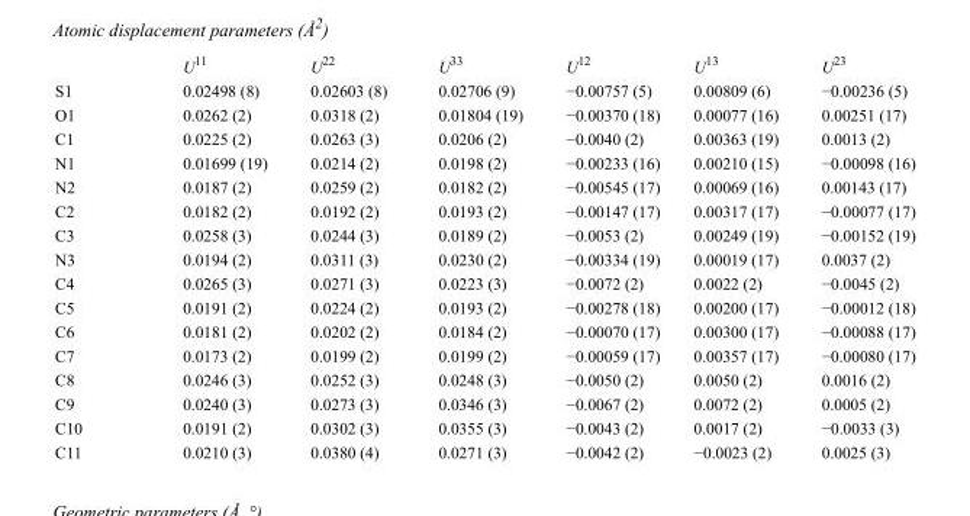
<table><thead><tr><td></td><td>U<sup>11</sup></td><td>U<sup>22</sup></td><td>U<sup>33</sup></td><td>U<sup>12</sup></td><td>U<sup>13</sup></td><td>U<sup>23</sup></td></tr></thead><tbody><tr><td>S1</td><td>0.02498 (8)</td><td>0.02603 (8)</td><td>0.02706 (9)</td><td>−0.00757 (5)</td><td>0.00809 (6)</td><td>−0.00236 (5)</td></tr><tr><td>O1</td><td>0.0262 (2)</td><td>0.0318 (2)</td><td>0.01804 (19)</td><td>−0.00370 (18)</td><td>0.00077 (16)</td><td>0.00251 (17)</td></tr><tr><td>C1</td><td>0.0225 (2)</td><td>0.0263 (3)</td><td>0.0206 (2)</td><td>−0.0040 (2)</td><td>0.00363 (19)</td><td>0.0013 (2)</td></tr><tr><td>N1</td><td>0.01699 (19)</td><td>0.0214 (2)</td><td>0.0198 (2)</td><td>−0.00233 (16)</td><td>0.00210 (15)</td><td>−0.00098 (16)</td></tr><tr><td>N2</td><td>0.0187 (2)</td><td>0.0259 (2)</td><td>0.0182 (2)</td><td>−0.00545 (17)</td><td>0.00069 (16)</td><td>0.00143 (17)</td></tr><tr><td>C2</td><td>0.0182 (2)</td><td>0.0192 (2)</td><td>0.0193 (2)</td><td>−0.00147 (17)</td><td>0.00317 (17)</td><td>−0.00077 (17)</td></tr><tr><td>C3</td><td>0.0258 (3)</td><td>0.0244 (3)</td><td>0.0189 (2)</td><td>−0.0053 (2)</td><td>0.00249 (19)</td><td>−0.00152 (19)</td></tr><tr><td>N3</td><td>0.0194 (2)</td><td>0.0311 (3)</td><td>0.0230 (2)</td><td>−0.00334 (19)</td><td>0.00019 (17)</td><td>0.0037 (2)</td></tr><tr><td>C4</td><td>0.0265 (3)</td><td>0.0271 (3)</td><td>0.0223 (3)</td><td>−0.0072 (2)</td><td>0.0022 (2)</td><td>−0.0045 (2)</td></tr><tr><td>C5</td><td>0.0191 (2)</td><td>0.0224 (2)</td><td>0.0193 (2)</td><td>−0.00278 (18)</td><td>0.00200 (17)</td><td>−0.00012 (18)</td></tr><tr><td>C6</td><td>0.0181 (2)</td><td>0.0202 (2)</td><td>0.0184 (2)</td><td>−0.00070 (17)</td><td>0.00300 (17)</td><td>−0.00088 (17)</td></tr><tr><td>C7</td><td>0.0173 (2)</td><td>0.0199 (2)</td><td>0.0199 (2)</td><td>−0.00059 (17)</td><td>0.00357 (17)</td><td>−0.00080 (17)</td></tr><tr><td>C8</td><td>0.0246 (3)</td><td>0.0252 (3)</td><td>0.0248 (3)</td><td>−0.0050 (2)</td><td>0.0050 (2)</td><td>0.0016 (2)</td></tr><tr><td>C9</td><td>0.0240 (3)</td><td>0.0273 (3)</td><td>0.0346 (3)</td><td>−0.0067 (2)</td><td>0.0072 (2)</td><td>0.0005 (2)</td></tr><tr><td>C10</td><td>0.0191 (2)</td><td>0.0302 (3)</td><td>0.0355 (3)</td><td>−0.0043 (2)</td><td>0.0017 (2)</td><td>−0.0033 (3)</td></tr><tr><td>C11</td><td>0.0210 (3)</td><td>0.0380 (4)</td><td>0.0271 (3)</td><td>−0.0042 (2)</td><td>−0.0023 (2)</td><td>0.0025 (3)</td></tr></tbody></table>